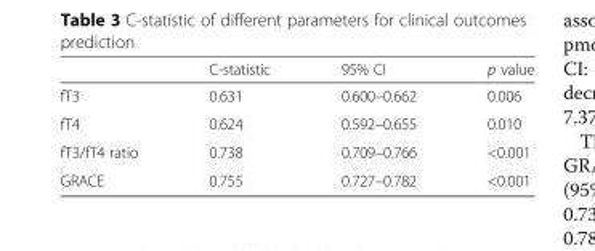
<table><thead><tr><td></td><td>C-statistic</td><td>95% CI</td><td>p value</td></tr></thead><tbody><tr><td>fT3</td><td>0.631</td><td>0.600–0.662</td><td>0.006</td></tr><tr><td>fT4</td><td>0.624</td><td>0.592–0.655</td><td>0.010</td></tr><tr><td>fT3/fT4 ratio</td><td>0.738</td><td>0.709–0.766</td><td>&lt;0.001</td></tr><tr><td>GRACE</td><td>0.755</td><td>0.727–0.782</td><td>&lt;0.001</td></tr></tbody></table>